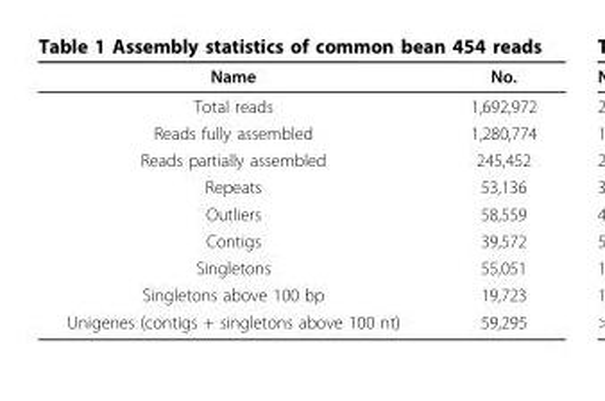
<table><thead><tr><td>Name</td><td>No.</td></tr></thead><tbody><tr><td>Total reads</td><td>1,692,972</td></tr><tr><td>Reads fully assembled</td><td>1,280,774</td></tr><tr><td>Reads partially assembled</td><td>245,452</td></tr><tr><td>Repeats</td><td>53,136</td></tr><tr><td>Outliers</td><td>58,559</td></tr><tr><td>Contigs</td><td>39,572</td></tr><tr><td>Singletons</td><td>55,051</td></tr><tr><td>Singletons above 100 bp</td><td>19,723</td></tr><tr><td>Unigenes (contigs + singletons above 100 nt)</td><td>59,295</td></tr></tbody></table>